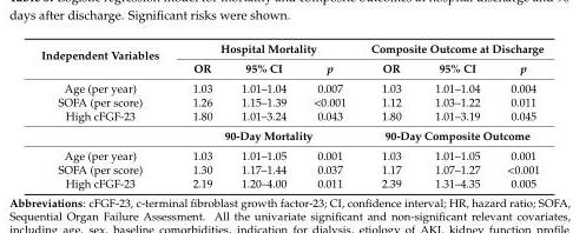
<table><thead><tr><td rowspan="2">Independent Variables</td><td colspan="3">Hospital Mortality</td><td colspan="3">Composite Outcome at Discharge</td></tr><tr><td>OR</td><td>95% CI</td><td>p</td><td>OR</td><td>95% CI</td><td>p</td></tr></thead><tbody><tr><td>Age (per year)</td><td>1.03</td><td>1.01–1.04</td><td>0.007</td><td>1.03</td><td>1.01–1.04</td><td>0.004</td></tr><tr><td>SOFA (per score)</td><td>1.26</td><td>1.15–1.39</td><td>&lt;0.001</td><td>1.12</td><td>1.03–1.22</td><td>0.011</td></tr><tr><td rowspan="2">High cFGF-23</td><td>1.80</td><td>1.01–3.24</td><td>0.043</td><td>1.80</td><td>1.01–3.19</td><td>0.045</td></tr><tr><td colspan="3">90-Day Mortality</td><td colspan="3">90-Day Composite Outcome</td></tr><tr><td>Age (per year)</td><td>1.03</td><td>1.01–1.05</td><td>0.001</td><td>1.03</td><td>1.01–1.05</td><td>0.001</td></tr><tr><td>SOFA (per score)</td><td>1.30</td><td>1.17–1.44</td><td>0.037</td><td>1.17</td><td>1.07–1.27</td><td>&lt;0.001</td></tr><tr><td>High cFGF-23</td><td>2.19</td><td>1.20–4.00</td><td>0.011</td><td>2.39</td><td>1.31–4.35</td><td>0.005</td></tr></tbody></table>